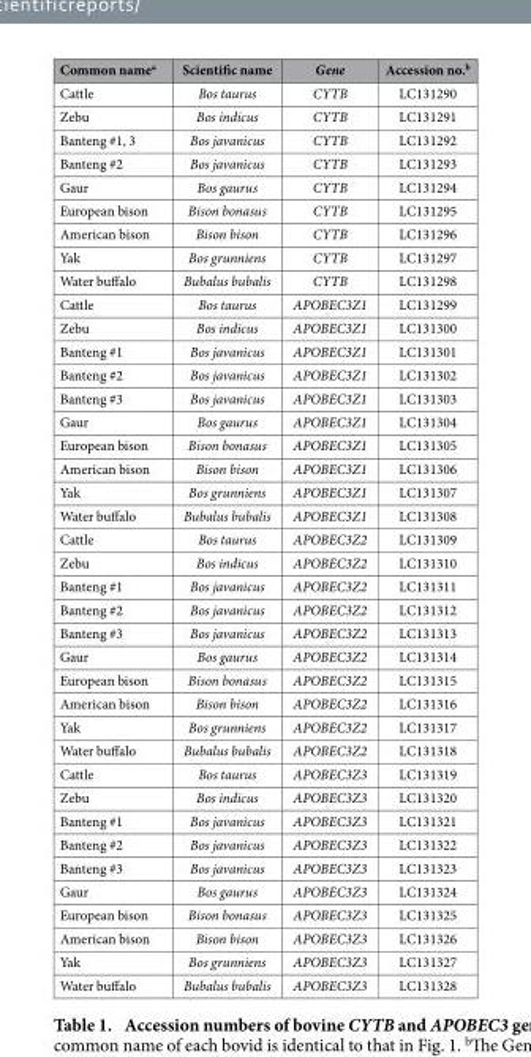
<table><thead><tr><td>Common name<sup>a</sup></td><td>Scientific name</td><td>Gene</td><td>Accession no.<sup>b</sup></td></tr></thead><tbody><tr><td>Cattle</td><td>Bos taurus</td><td>CYTB</td><td>LC131290</td></tr><tr><td>Zebu</td><td>Bos indicus</td><td>CYTB</td><td>LC131291</td></tr><tr><td>Banteng #1, 3</td><td>Bos javanicus</td><td>CYTB</td><td>LC131292</td></tr><tr><td>Banteng #2</td><td>Bos javanicus</td><td>CYTB</td><td>LC131293</td></tr><tr><td>Gaur</td><td>Bos gaurus</td><td>CYTB</td><td>LC131294</td></tr><tr><td>European bison</td><td>Bison bonasus</td><td>CYTB</td><td>LC131295</td></tr><tr><td>American bison</td><td>Bison bison</td><td>CYTB</td><td>LC131296</td></tr><tr><td>Yak</td><td>Bos grunniens</td><td>CYTB</td><td>LC131297</td></tr><tr><td>Water buffalo</td><td>Bubalus bubalis</td><td>CYTB</td><td>LC131298</td></tr><tr><td>Cattle</td><td>Bos taurus</td><td>APOBEC3Z1</td><td>LC131299</td></tr><tr><td>Zebu</td><td>Bos indicus</td><td>APOBEC3Z1</td><td>LC131300</td></tr><tr><td>Banteng #1</td><td>Bos javanicus</td><td>APOBEC3Z1</td><td>LC131301</td></tr><tr><td>Banteng #2</td><td>Bos javanicus</td><td>APOBEC3Z1</td><td>LC131302</td></tr><tr><td>Banteng #3</td><td>Bos javanicus</td><td>APOBEC3Z1</td><td>LC131303</td></tr><tr><td>Gaur</td><td>Bos gaurus</td><td>APOBEC3Z1</td><td>LC131304</td></tr><tr><td>European bison</td><td>Bison bonasus</td><td>APOBEC3Z1</td><td>LC131305</td></tr><tr><td>American bison</td><td>Bison bison</td><td>APOBEC3Z1</td><td>LC131306</td></tr><tr><td>Yak</td><td>Bos grunniens</td><td>APOBEC3Z1</td><td>LC131307</td></tr><tr><td>Water buffalo</td><td>Bubalus bubalis</td><td>APOBEC3Z1</td><td>LC131308</td></tr><tr><td>Cattle</td><td>Bos taurus</td><td>APOBEC3Z2</td><td>LC131309</td></tr><tr><td>Zebu</td><td>Bos indicus</td><td>APOBEC3Z2</td><td>LC131310</td></tr><tr><td>Banteng #1</td><td>Bos javanicus</td><td>APOBEC3Z2</td><td>LC131311</td></tr><tr><td>Banteng #2</td><td>Bos javanicus</td><td>APOBEC3Z2</td><td>LC131312</td></tr><tr><td>Banteng #3</td><td>Bos javanicus</td><td>APOBEC3Z2</td><td>LC131313</td></tr><tr><td>Gaur</td><td>Bos gaurus</td><td>APOBEC3Z2</td><td>LC131314</td></tr><tr><td>European bison</td><td>Bison bonasus</td><td>APOBEC3Z2</td><td>LC131315</td></tr><tr><td>American bison</td><td>Bison bison</td><td>APOBEC3Z2</td><td>LC131316</td></tr><tr><td>Yak</td><td>Bos grunniens</td><td>APOBEC3Z2</td><td>LC131317</td></tr><tr><td>Water buffalo</td><td>Bubalus bubalis</td><td>APOBEC3Z2</td><td>LC131318</td></tr><tr><td>Cattle</td><td>Bos taurus</td><td>APOBEC3Z3</td><td>LC131319</td></tr><tr><td>Zebu</td><td>Bos indicus</td><td>APOBEC3Z3</td><td>LC131320</td></tr><tr><td>Banteng #1</td><td>Bos javanicus</td><td>APOBEC3Z3</td><td>LC131321</td></tr><tr><td>Banteng #2</td><td>Bos javanicus</td><td>APOBEC3Z3</td><td>LC131322</td></tr><tr><td>Banteng #3</td><td>Bos javanicus</td><td>APOBEC3Z3</td><td>LC131323</td></tr><tr><td>Gaur</td><td>Bos gaurus</td><td>APOBEC3Z3</td><td>LC131324</td></tr><tr><td>European bison</td><td>Bison bonasus</td><td>APOBEC3Z3</td><td>LC131325</td></tr><tr><td>American bison</td><td>Bison bison</td><td>APOBEC3Z3</td><td>LC131326</td></tr><tr><td>Yak</td><td>Bos grunniens</td><td>APOBEC3Z3</td><td>LC131327</td></tr><tr><td>Water buffalo</td><td>Bubalus bubalis</td><td>APOBEC3Z3</td><td>LC131328</td></tr></tbody></table>